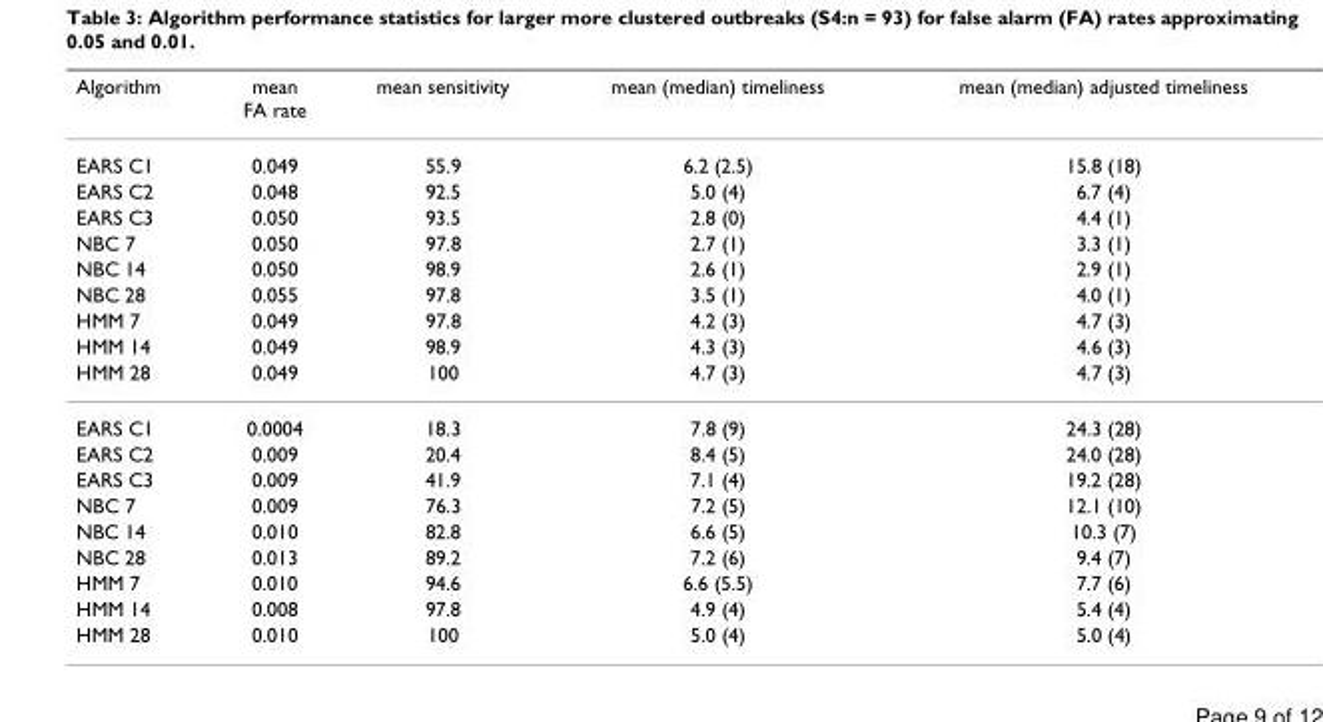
<table><thead><tr><td>Algorithm</td><td>mean FA rate</td><td>mean sensitivity</td><td>mean (median) timeliness</td><td>mean (median) adjusted timeliness</td></tr></thead><tbody><tr><td>EARS C1</td><td>0.049</td><td>55.9</td><td>6.2 (2.5)</td><td>15.8 (18)</td></tr><tr><td>EARS C2</td><td>0.048</td><td>92.5</td><td>5.0 (4)</td><td>6.7 (4)</td></tr><tr><td>EARS C3</td><td>0.050</td><td>93.5</td><td>2.8 (0)</td><td>4.4 (1)</td></tr><tr><td>NBC 7</td><td>0.050</td><td>97.8</td><td>2.7 (1)</td><td>3.3 (1)</td></tr><tr><td>NBC 14</td><td>0.050</td><td>98.9</td><td>2.6 (1)</td><td>2.9 (1)</td></tr><tr><td>NBC 28</td><td>0.055</td><td>97.8</td><td>3.5 (1)</td><td>4.0 (1)</td></tr><tr><td>HMM 7</td><td>0.049</td><td>97.8</td><td>4.2 (3)</td><td>4.7 (3)</td></tr><tr><td>HMM 14</td><td>0.049</td><td>98.9</td><td>4.3 (3)</td><td>4.6 (3)</td></tr><tr><td>HMM 28</td><td>0.049</td><td>100</td><td>4.7 (3)</td><td>4.7 (3)</td></tr><tr><td>EARS C1</td><td>0.0004</td><td>18.3</td><td>7.8 (9)</td><td>24.3 (28)</td></tr><tr><td>EARS C2</td><td>0.009</td><td>20.4</td><td>8.4 (5)</td><td>24.0 (28)</td></tr><tr><td>EARS C3</td><td>0.009</td><td>41.9</td><td>7.1 (4)</td><td>19.2 (28)</td></tr><tr><td>NBC 7</td><td>0.009</td><td>76.3</td><td>7.2 (5)</td><td>12.1 (10)</td></tr><tr><td>NBC 14</td><td>0.010</td><td>82.8</td><td>6.6 (5)</td><td>10.3 (7)</td></tr><tr><td>NBC 28</td><td>0.013</td><td>89.2</td><td>7.2 (6)</td><td>9.4 (7)</td></tr><tr><td>HMM 7</td><td>0.010</td><td>94.6</td><td>6.6 (5.5)</td><td>7.7 (6)</td></tr><tr><td>HMM 14</td><td>0.008</td><td>97.8</td><td>4.9 (4)</td><td>5.4 (4)</td></tr><tr><td>HMM 28</td><td>0.010</td><td>100</td><td>5.0 (4)</td><td>5.0 (4)</td></tr></tbody></table>